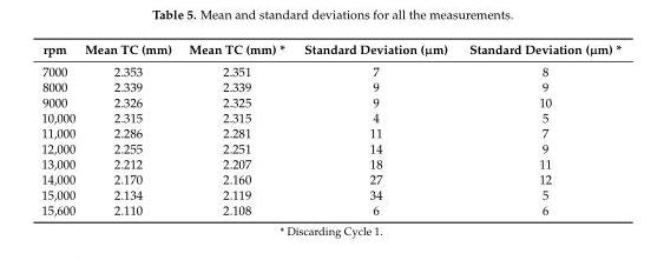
<table><thead><tr><td>rpm</td><td>Mean TC (mm)</td><td>Mean TC (mm) *</td><td>Standard Deviation (µm)</td><td>Standard Deviation (µm) *</td></tr></thead><tbody><tr><td>7000</td><td>2.353</td><td>2.351</td><td>7</td><td>8</td></tr><tr><td>8000</td><td>2.339</td><td>2.339</td><td>9</td><td>9</td></tr><tr><td>9000</td><td>2.326</td><td>2.325</td><td>9</td><td>10</td></tr><tr><td>10,000</td><td>2.315</td><td>2.315</td><td>4</td><td>5</td></tr><tr><td>11,000</td><td>2.286</td><td>2.281</td><td>11</td><td>7</td></tr><tr><td>12,000</td><td>2.255</td><td>2.251</td><td>14</td><td>9</td></tr><tr><td>13,000</td><td>2.212</td><td>2.207</td><td>18</td><td>11</td></tr><tr><td>14,000</td><td>2.170</td><td>2.160</td><td>27</td><td>12</td></tr><tr><td>15,000</td><td>2.134</td><td>2.119</td><td>34</td><td>5</td></tr><tr><td>15,600</td><td>2.110</td><td>2.108</td><td>6</td><td>6</td></tr></tbody></table>